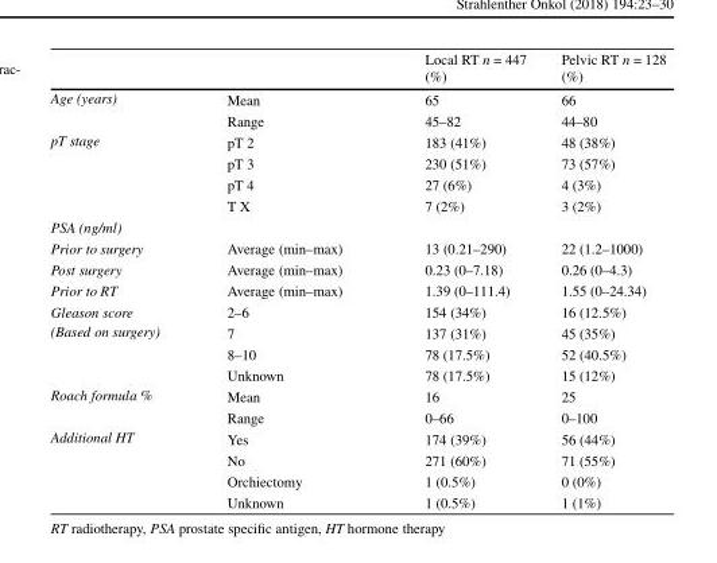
<table><thead><tr><td></td><td></td><td>Local RT n = 447 (%)</td><td>Pelvic RT n = 128 (%)</td></tr></thead><tbody><tr><td rowspan="2">Age (years)</td><td>Mean</td><td>65</td><td>66</td></tr><tr><td>Range</td><td>45–82</td><td>44–80</td></tr><tr><td rowspan="4">pT stage</td><td>pT 2</td><td>183 (41%)</td><td>48 (38%)</td></tr><tr><td>pT 3</td><td>230 (51%)</td><td>73 (57%)</td></tr><tr><td>pT 4</td><td>27 (6%)</td><td>4 (3%)</td></tr><tr><td>T X</td><td>7 (2%)</td><td>3 (2%)</td></tr><tr><td colspan="4">PSA (ng/ml)</td></tr><tr><td>Prior to surgery</td><td>Average (min–max)</td><td>13 (0.21–290)</td><td>22 (1.2–1000)</td></tr><tr><td>Post surgery</td><td>Average (min–max)</td><td>0.23 (0–7.18)</td><td>0.26 (0–4.3)</td></tr><tr><td>Prior to RT</td><td>Average (min–max)</td><td>1.39 (0–111.4)</td><td>1.55 (0–24.34)</td></tr><tr><td>Gleason score</td><td>2–6</td><td>154 (34%)</td><td>16 (12.5%)</td></tr><tr><td rowspan="3">(Based on surgery)</td><td>7</td><td>137 (31%)</td><td>45 (35%)</td></tr><tr><td>8–10</td><td>78 (17.5%)</td><td>52 (40.5%)</td></tr><tr><td>Unknown</td><td>78 (17.5%)</td><td>15 (12%)</td></tr><tr><td rowspan="2">Roach formula %</td><td>Mean</td><td>16</td><td>25</td></tr><tr><td>Range</td><td>0–66</td><td>0–100</td></tr><tr><td rowspan="4">Additional HT</td><td>Yes</td><td>174 (39%)</td><td>56 (44%)</td></tr><tr><td>No</td><td>271 (60%)</td><td>71 (55%)</td></tr><tr><td>Orchiectomy</td><td>1 (0.5%)</td><td>0 (0%)</td></tr><tr><td>Unknown</td><td>1 (0.5%)</td><td>1 (1%)</td></tr></tbody></table>